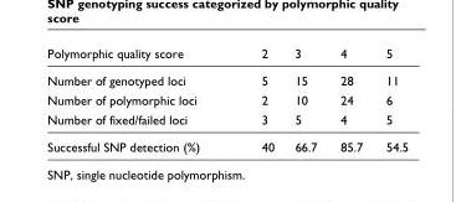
<table><thead><tr><td>Polymorphic quality score</td><td>2</td><td>3</td><td>4</td><td>5</td></tr></thead><tbody><tr><td>Number of genotyped loci</td><td>5</td><td>15</td><td>28</td><td>11</td></tr><tr><td>Number of polymorphic loci</td><td>2</td><td>10</td><td>24</td><td>6</td></tr><tr><td>Number of fixed/failed loci</td><td>3</td><td>5</td><td>4</td><td>5</td></tr><tr><td>Successful SNP detection (%)</td><td>40</td><td>66.7</td><td>85.7</td><td>54.5</td></tr></tbody></table>